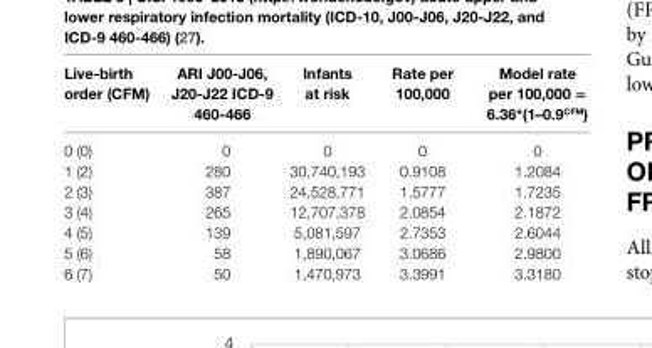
<table><thead><tr><td>live-birth order (cFM)</td><td>ari J00-J06, J20-J22 icD-9 460-466</td><td>infants at risk</td><td>rate per 100,000</td><td>Model rate per 100,000 = 6.36*(1–0.9<sup>cFM</sup>)</td></tr></thead><tbody><tr><td>0 (0)</td><td>0</td><td>0</td><td>0</td><td>0</td></tr><tr><td>1 (2)</td><td>280</td><td>30,740,193</td><td>0.9108</td><td>1.2084</td></tr><tr><td>2 (3)</td><td>387</td><td>24,528,771</td><td>1.5777</td><td>1.7235</td></tr><tr><td>3 (4)</td><td>265</td><td>12,707,378</td><td>2.0854</td><td>2.1872</td></tr><tr><td>4 (5)</td><td>139</td><td>5,081,597</td><td>2.7353</td><td>2.6044</td></tr><tr><td>5 (6)</td><td>58</td><td>1,890,067</td><td>3.0686</td><td>2.9800</td></tr><tr><td>6 (7)</td><td>50</td><td>1,470,973</td><td>3.3991</td><td>3.3180</td></tr></tbody></table>